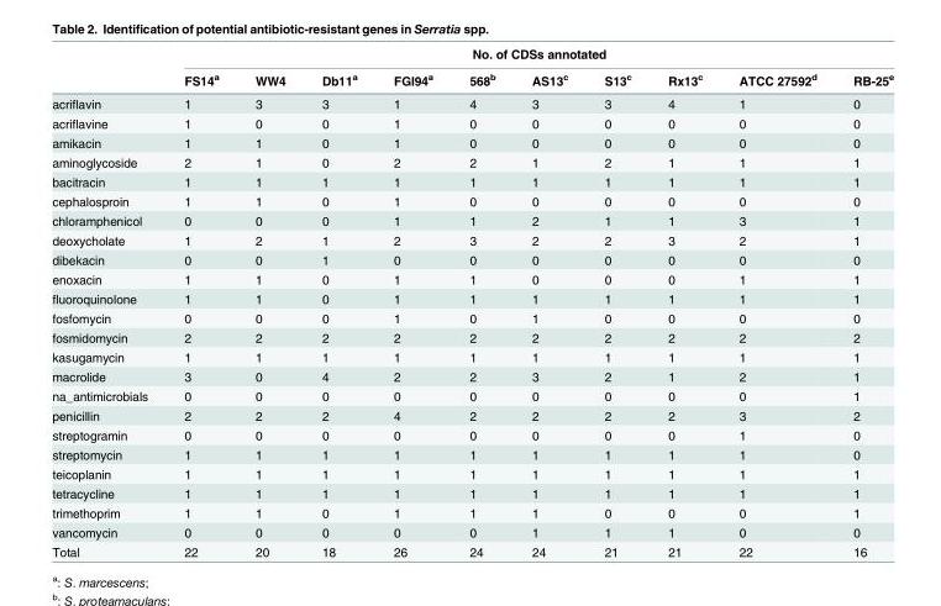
<table><thead><tr><td rowspan="2"></td><td colspan="10">No. of CDSs annotated</td></tr><tr><td>FS14<sup>a</sup></td><td>WW4</td><td>Db11<sup>a</sup></td><td>FGI94<sup>a</sup></td><td>568<sup>b</sup></td><td>AS13<sup>c</sup></td><td>S13<sup>c</sup></td><td>Rx13<sup>c</sup></td><td>ATCC 27592<sup>d</sup></td><td>RB-25<sup>e</sup></td></tr></thead><tbody><tr><td>acriflavin</td><td>1</td><td>3</td><td>3</td><td>1</td><td>4</td><td>3</td><td>3</td><td>4</td><td>1</td><td>0</td></tr><tr><td>acriflavine</td><td>1</td><td>0</td><td>0</td><td>1</td><td>0</td><td>0</td><td>0</td><td>0</td><td>0</td><td>0</td></tr><tr><td>amikacin</td><td>1</td><td>1</td><td>0</td><td>1</td><td>0</td><td>0</td><td>0</td><td>0</td><td>0</td><td>0</td></tr><tr><td>aminoglycoside</td><td>2</td><td>1</td><td>0</td><td>2</td><td>2</td><td>1</td><td>2</td><td>1</td><td>1</td><td>1</td></tr><tr><td>bacitracin</td><td>1</td><td>1</td><td>1</td><td>1</td><td>1</td><td>1</td><td>1</td><td>1</td><td>1</td><td>1</td></tr><tr><td>cephalosproin</td><td>1</td><td>1</td><td>0</td><td>1</td><td>0</td><td>0</td><td>0</td><td>0</td><td>0</td><td>0</td></tr><tr><td>chloramphenicol</td><td>0</td><td>0</td><td>0</td><td>1</td><td>1</td><td>2</td><td>1</td><td>1</td><td>3</td><td>1</td></tr><tr><td>deoxycholate</td><td>1</td><td>2</td><td>1</td><td>2</td><td>3</td><td>2</td><td>2</td><td>3</td><td>2</td><td>1</td></tr><tr><td>dibekacin</td><td>0</td><td>0</td><td>1</td><td>0</td><td>0</td><td>0</td><td>0</td><td>0</td><td>0</td><td>0</td></tr><tr><td>enoxacin</td><td>1</td><td>1</td><td>0</td><td>1</td><td>1</td><td>0</td><td>0</td><td>0</td><td>1</td><td>1</td></tr><tr><td>fluoroquinolone</td><td>1</td><td>1</td><td>0</td><td>1</td><td>1</td><td>1</td><td>1</td><td>1</td><td>1</td><td>1</td></tr><tr><td>fosfomycin</td><td>0</td><td>0</td><td>0</td><td>1</td><td>0</td><td>1</td><td>0</td><td>0</td><td>0</td><td>0</td></tr><tr><td>fosmidomycin</td><td>2</td><td>2</td><td>2</td><td>2</td><td>2</td><td>2</td><td>2</td><td>2</td><td>2</td><td>2</td></tr><tr><td>kasugamycin</td><td>1</td><td>1</td><td>1</td><td>1</td><td>1</td><td>1</td><td>1</td><td>1</td><td>1</td><td>1</td></tr><tr><td>macrolide</td><td>3</td><td>0</td><td>4</td><td>2</td><td>2</td><td>3</td><td>2</td><td>1</td><td>2</td><td>1</td></tr><tr><td>na_antimicrobials</td><td>0</td><td>0</td><td>0</td><td>0</td><td>0</td><td>0</td><td>0</td><td>0</td><td>0</td><td>1</td></tr><tr><td>penicillin</td><td>2</td><td>2</td><td>2</td><td>4</td><td>2</td><td>2</td><td>2</td><td>2</td><td>3</td><td>2</td></tr><tr><td>streptogramin</td><td>0</td><td>0</td><td>0</td><td>0</td><td>0</td><td>0</td><td>0</td><td>0</td><td>1</td><td>0</td></tr><tr><td>streptomycin</td><td>1</td><td>1</td><td>1</td><td>1</td><td>1</td><td>1</td><td>1</td><td>1</td><td>1</td><td>0</td></tr><tr><td>teicoplanin</td><td>1</td><td>1</td><td>1</td><td>1</td><td>1</td><td>1</td><td>1</td><td>1</td><td>1</td><td>1</td></tr><tr><td>tetracycline</td><td>1</td><td>1</td><td>1</td><td>1</td><td>1</td><td>1</td><td>1</td><td>1</td><td>1</td><td>1</td></tr><tr><td>trimethoprim</td><td>1</td><td>1</td><td>0</td><td>1</td><td>1</td><td>1</td><td>0</td><td>0</td><td>0</td><td>1</td></tr><tr><td>vancomycin</td><td>0</td><td>0</td><td>0</td><td>0</td><td>0</td><td>1</td><td>1</td><td>1</td><td>0</td><td>0</td></tr><tr><td>Total</td><td>22</td><td>20</td><td>18</td><td>26</td><td>24</td><td>24</td><td>21</td><td>21</td><td>22</td><td>16</td></tr></tbody></table>